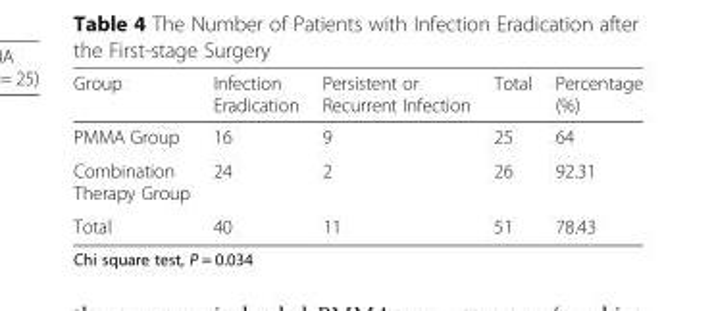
<table><thead><tr><td>Group</td><td>Infection Eradication</td><td>Persistent or Recurrent Infection</td><td>Total</td><td>Percentage (%)</td></tr></thead><tbody><tr><td>PMMA Group</td><td>16</td><td>9</td><td>25</td><td>64</td></tr><tr><td>Combination Therapy Group</td><td>24</td><td>2</td><td>26</td><td>92.31</td></tr><tr><td>Total</td><td>40</td><td>11</td><td>51</td><td>78.43</td></tr></tbody></table>